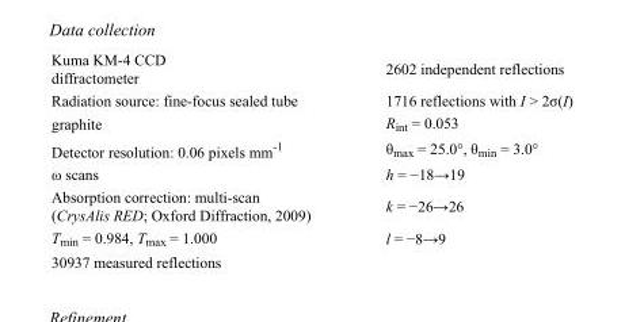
<table><tbody><tr><td>Kuma KM-4 CCD diffractometer</td><td>2602 independent reflections</td></tr><tr><td>Radiation source: fine-focus sealed tube</td><td>1716 reflections with I &gt; 2σ(I)</td></tr><tr><td>graphite</td><td>R<sub>int</sub> = 0.053</td></tr><tr><td>Detector resolution: 0.06 pixels mm<sup>-1</sup></td><td>θ<sub>max</sub> = 25.0°, θ<sub>min</sub> = 3.0°</td></tr><tr><td>ω scans</td><td>h = −18→19</td></tr><tr><td>Absorption correction: multi-scan (CrysAlis RED; Oxford Diffraction, 2009)</td><td>k = −26→26</td></tr><tr><td>T<sub>min</sub> = 0.984, T<sub>max</sub> = 1.000</td><td>l = −8→9</td></tr><tr><td>30937 measured reflections</td><td></td></tr></tbody></table>